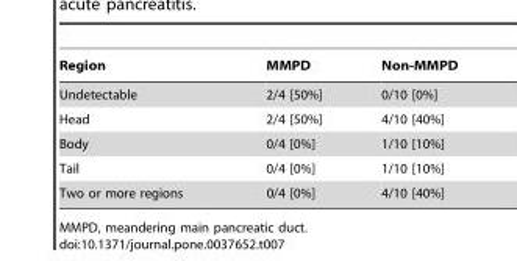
<table><thead><tr><td>Region</td><td>MMPD</td><td>Non-MMPD</td></tr></thead><tbody><tr><td>Undetectable</td><td>2/4 [50%]</td><td>0/10 [0%]</td></tr><tr><td>Head</td><td>2/4 [50%]</td><td>4/10 [40%]</td></tr><tr><td>Body</td><td>0/4 [0%]</td><td>1/10 [10%]</td></tr><tr><td>Tail</td><td>0/4 [0%]</td><td>1/10 [10%]</td></tr><tr><td>Two or more regions</td><td>0/4 [0%]</td><td>4/10 [40%]</td></tr></tbody></table>